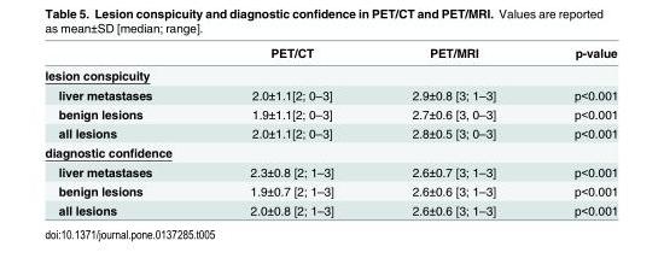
<table><thead><tr><td></td><td>PET/CT</td><td>PET/MRI</td><td>p-value</td></tr></thead><tbody><tr><td colspan="4">lesion conspicuity</td></tr><tr><td>liver metastases</td><td>2.0±1.1[2; 0–3]</td><td>2.9±0.8 [3; 1–3]</td><td>p&lt;0.001</td></tr><tr><td>benign lesions</td><td>1.9±1.1[2; 0–3]</td><td>2.7±0.6 [3, 0–3]</td><td>p&lt;0.001</td></tr><tr><td>all lesions</td><td>2.0±1.1[2; 0–3]</td><td>2.8±0.5 [3; 0–3]</td><td>p&lt;0.001</td></tr><tr><td colspan="4">diagnostic confidence</td></tr><tr><td>liver metastases</td><td>2.3±0.8 [2; 1–3]</td><td>2.6±0.7 [3; 1–3]</td><td>p&lt;0.001</td></tr><tr><td>benign lesions</td><td>1.9±0.7 [2; 1–3]</td><td>2.6±0.6 [3; 1–3]</td><td>p&lt;0.001</td></tr><tr><td>all lesions</td><td>2.0±0.8 [2; 1–3]</td><td>2.6±0.6 [3; 1–3]</td><td>p&lt;0.001</td></tr></tbody></table>